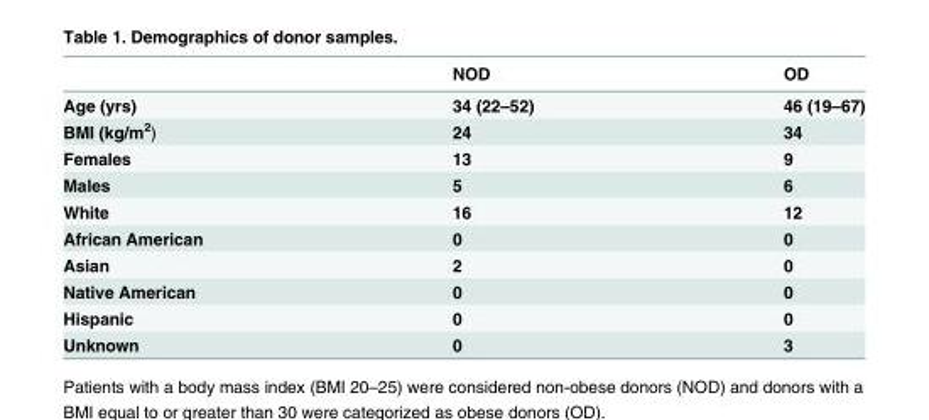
<table><thead><tr><td></td><td>NOD</td><td>OD</td></tr></thead><tbody><tr><td>Age (yrs)</td><td>34 (22–52)</td><td>46 (19–67)</td></tr><tr><td>BMI (kg/m<sup>2</sup>)</td><td>24</td><td>34</td></tr><tr><td>Females</td><td>13</td><td>9</td></tr><tr><td>Males</td><td>5</td><td>6</td></tr><tr><td>White</td><td>16</td><td>12</td></tr><tr><td>African American</td><td>0</td><td>0</td></tr><tr><td>Asian</td><td>2</td><td>0</td></tr><tr><td>Native American</td><td>0</td><td>0</td></tr><tr><td>Hispanic</td><td>0</td><td>0</td></tr><tr><td>Unknown</td><td>0</td><td>3</td></tr></tbody></table>